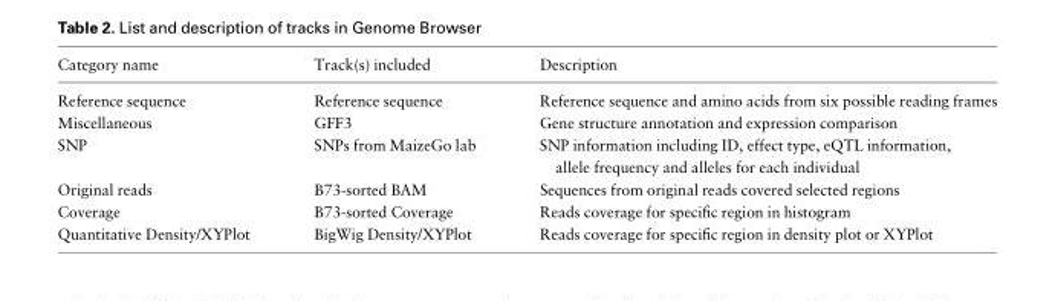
<table><thead><tr><td>Category name</td><td>Track(s) included</td><td>Description</td></tr></thead><tbody><tr><td>Reference sequence</td><td>Reference sequence</td><td>Reference sequence and amino acids from six possible reading frames</td></tr><tr><td>Miscellaneous</td><td>GFF3</td><td>Gene structure annotation and expression comparison</td></tr><tr><td>SNP</td><td>SNPs from MaizeGo lab</td><td>SNP information including ID, effect type, eQTL information, allele frequency and alleles for each individual</td></tr><tr><td>Original reads</td><td>B73-sorted BAM</td><td>Sequences from original reads covered selected regions</td></tr><tr><td>Coverage</td><td>B73-sorted Coverage</td><td>Reads coverage for specific region in histogram</td></tr><tr><td>Quantitative Density/XYPlot</td><td>BigWig Density/XYPlot</td><td>Reads coverage for specific region in density plot or XYPlot</td></tr></tbody></table>